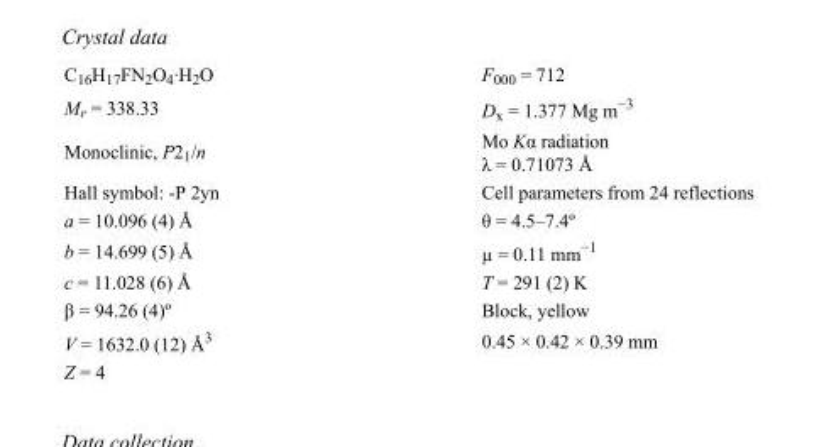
<table><tbody><tr><td>C<sub>16</sub>H<sub>17</sub>FN<sub>2</sub>O<sub>4</sub>·H<sub>2</sub>O</td><td>F<sub>000</sub> = 712</td></tr><tr><td>M<sub>r</sub> = 338.33</td><td>D<sub>x</sub> = 1.377 Mg m<sup>−3</sup></td></tr><tr><td>Monoclinic, P2<sub>1</sub>/n</td><td>Mo Kα radiation λ = 0.71073 Å</td></tr><tr><td>Hall symbol: -P 2yn</td><td>Cell parameters from 24 reflections</td></tr><tr><td>a = 10.096 (4) Å</td><td>θ = 4.5–7.4º</td></tr><tr><td>b = 14.699 (5) Å</td><td>µ = 0.11 mm<sup>−1</sup></td></tr><tr><td>c = 11.028 (6) Å</td><td>T = 291 (2) K</td></tr><tr><td>β = 94.26 (4)º</td><td>Block, yellow</td></tr><tr><td>V = 1632.0 (12) Å<sup>3</sup></td><td>0.45 × 0.42 × 0.39 mm</td></tr><tr><td>Z = 4</td><td></td></tr></tbody></table>